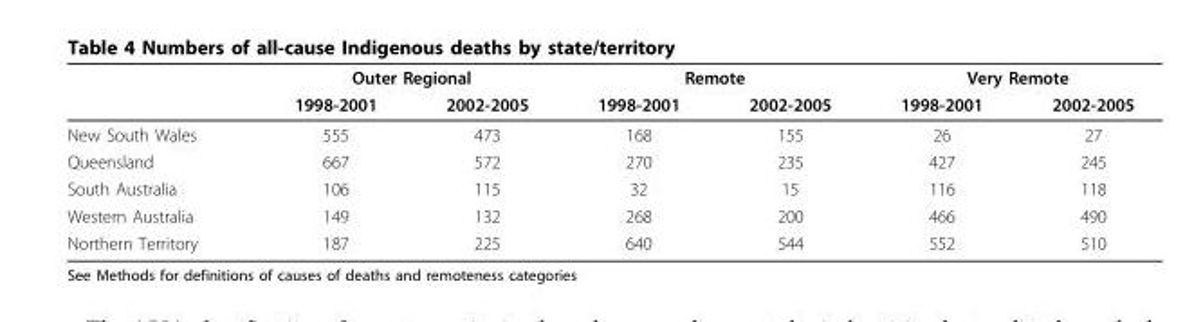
<table><thead><tr><td rowspan="2"></td><td colspan="2">Outer Regional</td><td colspan="2">Remote</td><td colspan="2">Very Remote</td></tr><tr><td>1998-2001</td><td>2002-2005</td><td>1998-2001</td><td>2002-2005</td><td>1998-2001</td><td>2002-2005</td></tr></thead><tbody><tr><td>New South Wales</td><td>555</td><td>473</td><td>168</td><td>155</td><td>26</td><td>27</td></tr><tr><td>Queensland</td><td>667</td><td>572</td><td>270</td><td>235</td><td>427</td><td>245</td></tr><tr><td>South Australia</td><td>106</td><td>115</td><td>32</td><td>15</td><td>116</td><td>118</td></tr><tr><td>Western Australia</td><td>149</td><td>132</td><td>268</td><td>200</td><td>466</td><td>490</td></tr><tr><td>Northern Territory</td><td>187</td><td>225</td><td>640</td><td>544</td><td>552</td><td>510</td></tr></tbody></table>